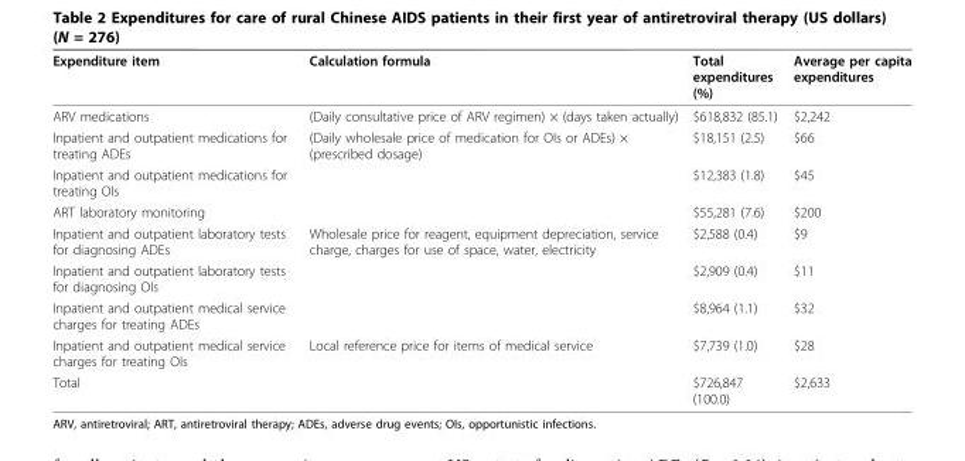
<table><thead><tr><td>Expenditure item</td><td>Calculation formula</td><td>Total expenditures (%)</td><td>Average per capita expenditures</td></tr></thead><tbody><tr><td>ARV medications</td><td>(Daily consultative price of ARV regimen) × (days taken actually)</td><td>$618,832 (85.1)</td><td>$2,242</td></tr><tr><td>Inpatient and outpatient medications for treating ADEs</td><td>(Daily wholesale price of medication for OIs or ADEs) × (prescribed dosage)</td><td>$18,151 (2.5)</td><td>$66</td></tr><tr><td>Inpatient and outpatient medications for treating OIs</td><td></td><td>$12,383 (1.8)</td><td>$45</td></tr><tr><td>ART laboratory monitoring</td><td></td><td>$55,281 (7.6)</td><td>$200</td></tr><tr><td>Inpatient and outpatient laboratory tests for diagnosing ADEs</td><td>Wholesale price for reagent, equipment depreciation, service charge, charges for use of space, water, electricity</td><td>$2,588 (0.4)</td><td>$9</td></tr><tr><td>Inpatient and outpatient laboratory tests for diagnosing OIs</td><td></td><td>$2,909 (0.4)</td><td>$11</td></tr><tr><td>Inpatient and outpatient medical service charges for treating ADEs</td><td></td><td>$8,964 (1.1)</td><td>$32</td></tr><tr><td>Inpatient and outpatient medical service charges for treating OIs</td><td>Local reference price for items of medical service</td><td>$7,739 (1.0)</td><td>$28</td></tr><tr><td>Total</td><td></td><td>$726,847 (100.0)</td><td>$2,633</td></tr></tbody></table>